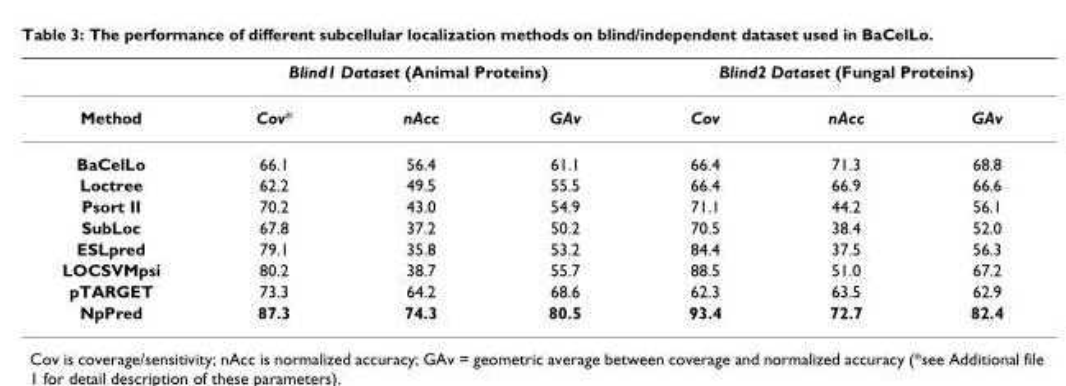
<table><thead><tr><td rowspan="2">Method</td><td colspan="3">Blind1 Dataset (Animal Proteins)</td><td colspan="3">Blind2 Dataset (Fungal Proteins)</td></tr><tr><td>Cov*</td><td>nAcc</td><td>GAv</td><td>Cov</td><td>nAcc</td><td>GAv</td></tr></thead><tbody><tr><td>BaCelLo</td><td>66.1</td><td>56.4</td><td>61.1</td><td>66.4</td><td>71.3</td><td>68.8</td></tr><tr><td>Loctree</td><td>62.2</td><td>49.5</td><td>55.5</td><td>66.4</td><td>66.9</td><td>66.6</td></tr><tr><td>Psort II</td><td>70.2</td><td>43.0</td><td>54.9</td><td>71.1</td><td>44.2</td><td>56.1</td></tr><tr><td>SubLoc</td><td>67.8</td><td>37.2</td><td>50.2</td><td>70.5</td><td>38.4</td><td>52.0</td></tr><tr><td>ESLpred</td><td>79.1</td><td>35.8</td><td>53.2</td><td>84.4</td><td>37.5</td><td>56.3</td></tr><tr><td>LOCSVMpsi</td><td>80.2</td><td>38.7</td><td>55.7</td><td>88.5</td><td>51.0</td><td>67.2</td></tr><tr><td>pTARGET</td><td>73.3</td><td>64.2</td><td>68.6</td><td>62.3</td><td>63.5</td><td>62.9</td></tr><tr><td>NpPred</td><td>87.3</td><td>74.3</td><td>80.5</td><td>93.4</td><td>72.7</td><td>82.4</td></tr></tbody></table>